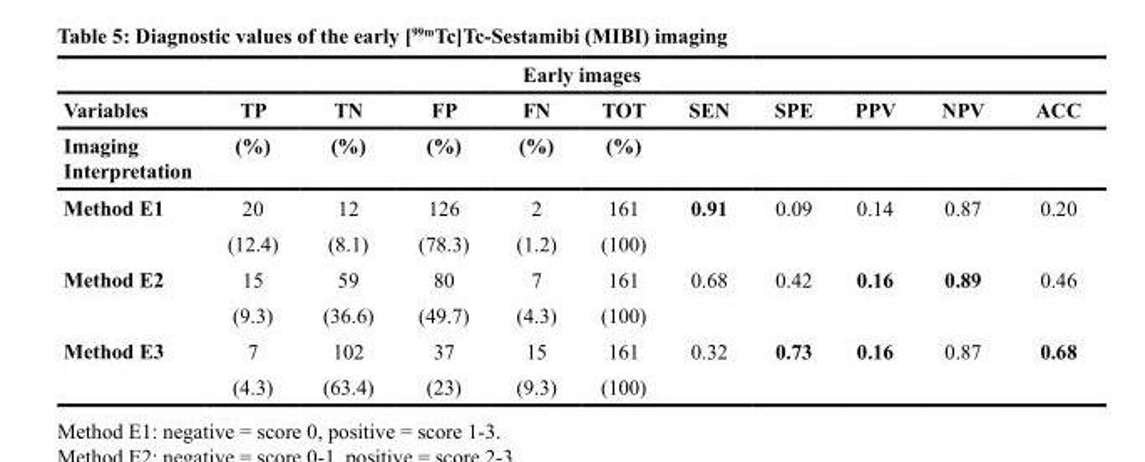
<table><thead><tr><td colspan="11">Early images</td></tr><tr><td rowspan="2">Variables Imaging Interpretation</td><td rowspan="2">TP (%)</td><td rowspan="2">TN (%)</td><td rowspan="2">FP (%)</td><td rowspan="2">FN (%)</td><td rowspan="2">TOT (%)</td><td rowspan="2">SEN</td><td rowspan="2">SPE</td><td rowspan="2">PPV</td><td rowspan="2">NPV</td><td rowspan="2">ACC</td></tr><tr></tr></thead><tbody><tr><td rowspan="2">Method E1</td><td>20</td><td>12</td><td>126</td><td>2</td><td>161</td><td>0.91</td><td>0.09</td><td>0.14</td><td>0.87</td><td>0.20</td></tr><tr><td>(12.4)</td><td>(8.1)</td><td>(78.3)</td><td>(1.2)</td><td>(100)</td><td></td><td></td><td></td><td></td><td></td></tr><tr><td rowspan="2">Method E2</td><td>15</td><td>59</td><td>80</td><td>7</td><td>161</td><td>0.68</td><td>0.42</td><td>0.16</td><td>0.89</td><td>0.46</td></tr><tr><td>(9.3)</td><td>(36.6)</td><td>(49.7)</td><td>(4.3)</td><td>(100)</td><td></td><td></td><td></td><td></td><td></td></tr><tr><td rowspan="2">Method E3</td><td>7</td><td>102</td><td>37</td><td>15</td><td>161</td><td>0.32</td><td>0.73</td><td>0.16</td><td>0.87</td><td>0.68</td></tr><tr><td>(4.3)</td><td>(63.4)</td><td>(23)</td><td>(9.3)</td><td>(100)</td><td></td><td></td><td></td><td></td><td></td></tr></tbody></table>